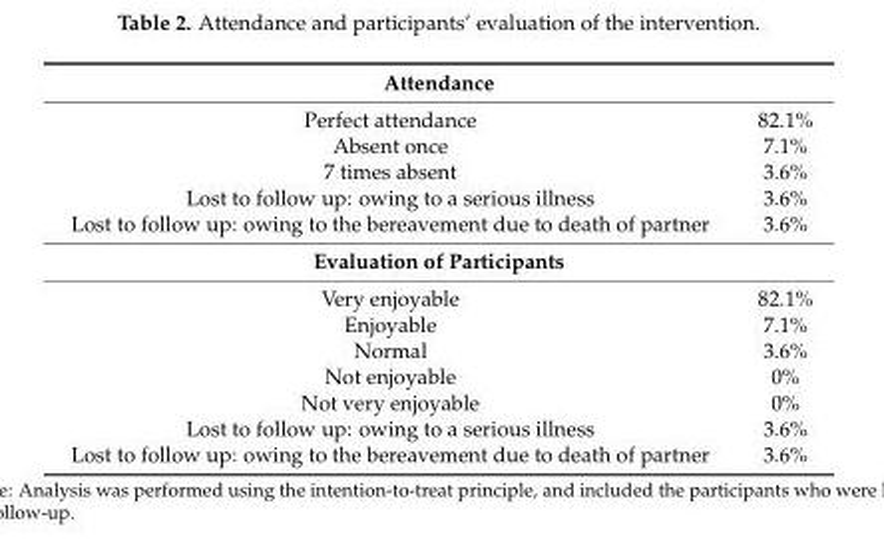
<table><tbody><tr><td colspan="2">Attendance</td></tr><tr><td>Perfect attendance</td><td>82.1%</td></tr><tr><td>Absent once</td><td>7.1%</td></tr><tr><td>7 times absent</td><td>3.6%</td></tr><tr><td>Lost to follow up: owing to a serious illness</td><td>3.6%</td></tr><tr><td>Lost to follow up: owing to the bereavement due to death of partner</td><td>3.6%</td></tr><tr><td colspan="2">Evaluation of Participants</td></tr><tr><td>Very enjoyable</td><td>82.1%</td></tr><tr><td>Enjoyable</td><td>7.1%</td></tr><tr><td>Normal</td><td>3.6%</td></tr><tr><td>Not enjoyable</td><td>0%</td></tr><tr><td>Not very enjoyable</td><td>0%</td></tr><tr><td>Lost to follow up: owing to a serious illness</td><td>3.6%</td></tr><tr><td>Lost to follow up: owing to the bereavement due to death of partner</td><td>3.6%</td></tr></tbody></table>